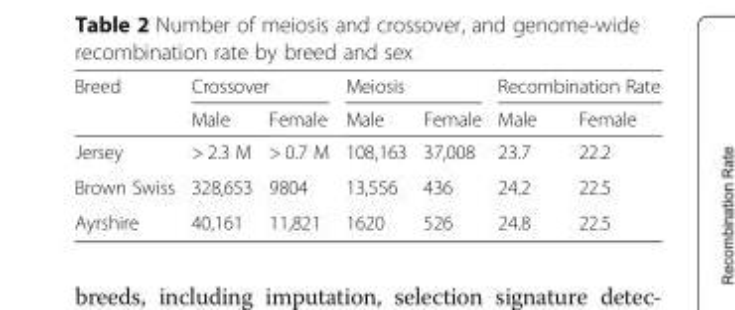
<table><thead><tr><td rowspan="2">Breed</td><td colspan="2">Crossover</td><td colspan="2">Meiosis</td><td colspan="2">Recombination Rate</td></tr><tr><td>Male</td><td>Female</td><td>Male</td><td>Female</td><td>Male</td><td>Female</td></tr></thead><tbody><tr><td>Jersey</td><td>&gt; 2.3 M</td><td>&gt; 0.7 M</td><td>108,163</td><td>37,008</td><td>23.7</td><td>22.2</td></tr><tr><td>Brown Swiss</td><td>328,653</td><td>9804</td><td>13,556</td><td>436</td><td>24.2</td><td>22.5</td></tr><tr><td>Ayrshire</td><td>40,161</td><td>11,821</td><td>1620</td><td>526</td><td>24.8</td><td>22.5</td></tr></tbody></table>